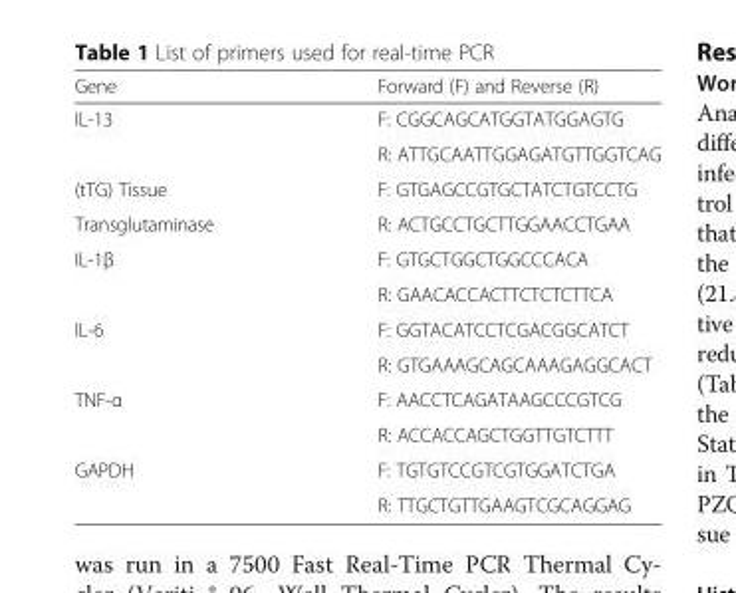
<table><thead><tr><td>Gene</td><td>Forward (F) and Reverse (R)</td></tr></thead><tbody><tr><td rowspan="2">IL-13</td><td>F: CGGCAGCATGGTATGGAGTG</td></tr><tr><td>R: ATTGCAATTGGAGATGTTGGTCAG</td></tr><tr><td>(tTG) Tissue</td><td>F: GTGAGCCGTGCTATCTGTCCTG</td></tr><tr><td>Transglutaminase</td><td>R: ACTGCCTGCTTGGAACCTGAA</td></tr><tr><td rowspan="2">IL-1β</td><td>F: GTGCTGGCTGGCCCACA</td></tr><tr><td>R: GAACACCACTTCTCTCTTCA</td></tr><tr><td rowspan="2">IL-6</td><td>F: GGTACATCCTCGACGGCATCT</td></tr><tr><td>R: GTGAAAGCAGCAAAGAGGCACT</td></tr><tr><td rowspan="2">TNF-α</td><td>F: AACCTCAGATAAGCCCGTCG</td></tr><tr><td>R: ACCACCAGCTGGTTGTCTTT</td></tr><tr><td rowspan="2">GAPDH</td><td>F: TGTGTCCGTCGTGGATCTGA</td></tr><tr><td>R: TTGCTGTTGAAGTCGCAGGAG</td></tr></tbody></table>